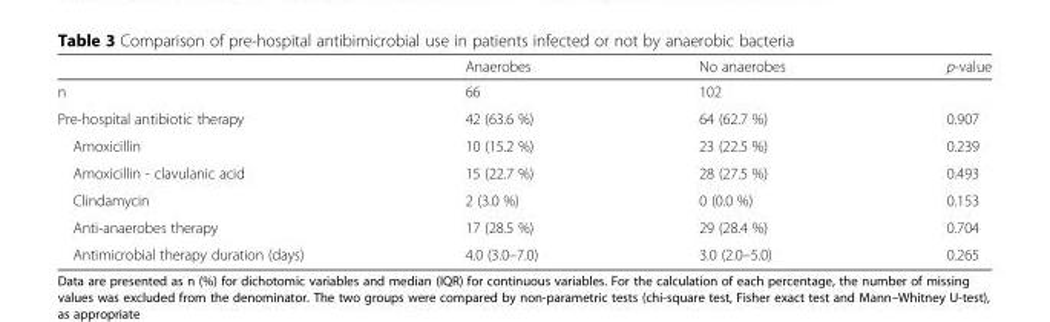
<table><thead><tr><td></td><td>Anaerobes</td><td>No anaerobes</td><td>p-value</td></tr></thead><tbody><tr><td>n</td><td>66</td><td>102</td><td></td></tr><tr><td>Pre-hospital antibiotic therapy</td><td>42 (63.6 %)</td><td>64 (62.7 %)</td><td>0.907</td></tr><tr><td>Amoxicillin</td><td>10 (15.2 %)</td><td>23 (22.5 %)</td><td>0.239</td></tr><tr><td>Amoxicillin - clavulanic acid</td><td>15 (22.7 %)</td><td>28 (27.5 %)</td><td>0.493</td></tr><tr><td>Clindamycin</td><td>2 (3.0 %)</td><td>0 (0.0 %)</td><td>0.153</td></tr><tr><td>Anti-anaerobes therapy</td><td>17 (28.5 %)</td><td>29 (28.4 %)</td><td>0.704</td></tr><tr><td>Antimicrobial therapy duration (days)</td><td>4.0 (3.0–7.0)</td><td>3.0 (2.0–5.0)</td><td>0.265</td></tr></tbody></table>